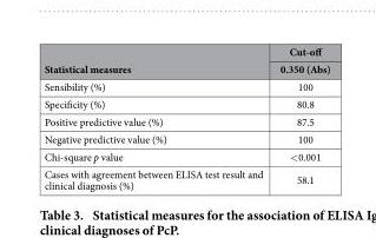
<table><thead><tr><td rowspan="2">Statistical measures</td><td rowspan="2">Cut-off 0.350 (Abs)</td></tr><tr></tr></thead><tbody><tr><td>Sensibility (%)</td><td>100</td></tr><tr><td>Specificity (%)</td><td>80.8</td></tr><tr><td>Positive predictive value (%)</td><td>87.5</td></tr><tr><td>Negative predictive value (%)</td><td>100</td></tr><tr><td>Chi-square p value</td><td>&lt; 0.001</td></tr><tr><td>Cases with agreement between ELISA test result and clinical diagnosis (%)</td><td>58.1</td></tr></tbody></table>